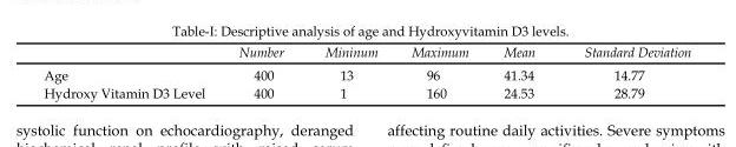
<table><thead><tr><td></td><td>Number</td><td>Mininum</td><td>Maximum</td><td>Mean</td><td>Standard Deviation</td></tr></thead><tbody><tr><td>Age</td><td>400</td><td>13</td><td>96</td><td>41.34</td><td>14.77</td></tr><tr><td>Hydroxy Vitamin D3 Level</td><td>400</td><td>1</td><td>160</td><td>24.53</td><td>28.79</td></tr></tbody></table>